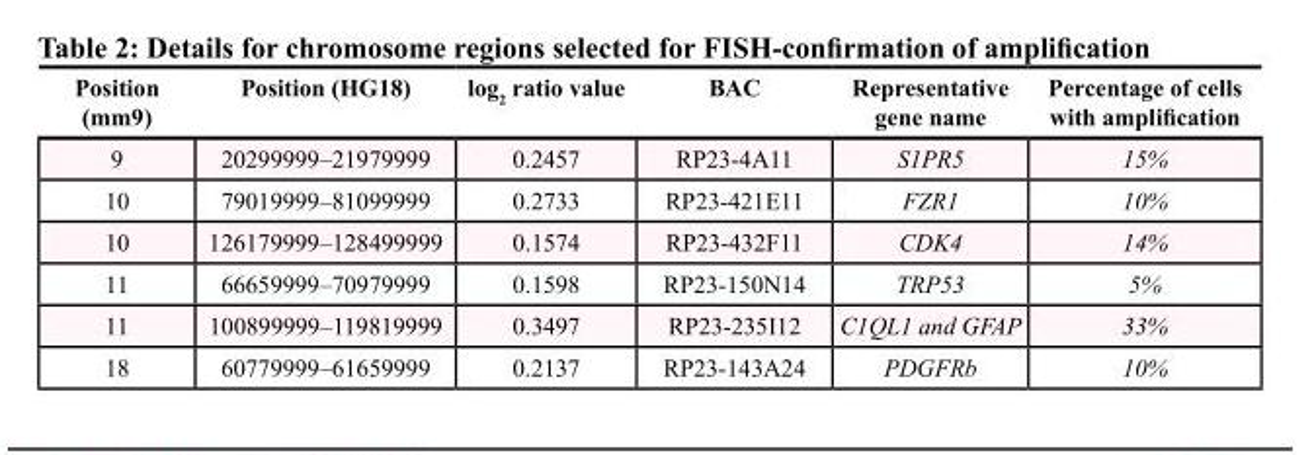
<table><thead><tr><td>Position (mm9)</td><td>Position (HG18)</td><td>log<sub>2</sub> ratio value</td><td>BAC</td><td>Representative gene name</td><td>Percentage of cells with amplification</td></tr></thead><tbody><tr><td>9</td><td>20299999–21979999</td><td>0.2457</td><td>RP23-4A11</td><td>S1PR5</td><td>15%</td></tr><tr><td>10</td><td>79019999–81099999</td><td>0.2733</td><td>RP23-421E11</td><td>FZR1</td><td>10%</td></tr><tr><td>10</td><td>126179999–128499999</td><td>0.1574</td><td>RP23-432F11</td><td>CDK4</td><td>14%</td></tr><tr><td>11</td><td>66659999–70979999</td><td>0.1598</td><td>RP23-150N14</td><td>TRP53</td><td>5%</td></tr><tr><td>11</td><td>100899999–119819999</td><td>0.3497</td><td>RP23-235I12</td><td>C1QL1 and GFAP</td><td>33%</td></tr><tr><td>18</td><td>60779999–61659999</td><td>0.2137</td><td>RP23-143A24</td><td>PDGFRb</td><td>10%</td></tr></tbody></table>